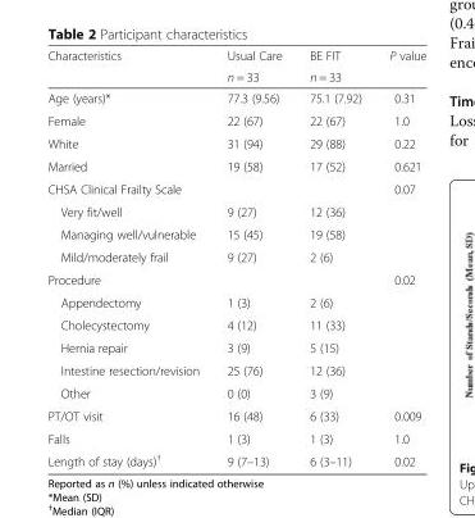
<table><thead><tr><td rowspan="2">Characteristics</td><td rowspan="2">Usual Care n = 33</td><td rowspan="2">BE FIT n = 33</td><td rowspan="2">P value</td></tr><tr></tr></thead><tbody><tr><td>Age (years)*</td><td>77.3 (9.56)</td><td>75.1 (7.92)</td><td>0.31</td></tr><tr><td>Female</td><td>22 (67)</td><td>22 (67)</td><td>1.0</td></tr><tr><td>White</td><td>31 (94)</td><td>29 (88)</td><td>0.22</td></tr><tr><td>Married</td><td>19 (58)</td><td>17 (52)</td><td>0.621</td></tr><tr><td>CHSA Clinical Frailty Scale</td><td></td><td></td><td>0.07</td></tr><tr><td>Very fit/well</td><td>9 (27)</td><td>12 (36)</td><td></td></tr><tr><td>Managing well/vulnerable</td><td>15 (45)</td><td>19 (58)</td><td></td></tr><tr><td>Mild/moderately frail</td><td>9 (27)</td><td>2 (6)</td><td></td></tr><tr><td>Procedure</td><td></td><td></td><td>0.02</td></tr><tr><td>Appendectomy</td><td>1 (3)</td><td>2 (6)</td><td></td></tr><tr><td>Cholecystectomy</td><td>4 (12)</td><td>11 (33)</td><td></td></tr><tr><td>Hernia repair</td><td>3 (9)</td><td>5 (15)</td><td></td></tr><tr><td>Intestine resection/revision</td><td>25 (76)</td><td>12 (36)</td><td></td></tr><tr><td>Other</td><td>0 (0)</td><td>3 (9)</td><td></td></tr><tr><td>PT/OT visit</td><td>16 (48)</td><td>6 (33)</td><td>0.009</td></tr><tr><td>Falls</td><td>1 (3)</td><td>1 (3)</td><td>1.0</td></tr><tr><td>Length of stay (days)<sup>†</sup></td><td>9 (7–13)</td><td>6 (3–11)</td><td>0.02</td></tr></tbody></table>